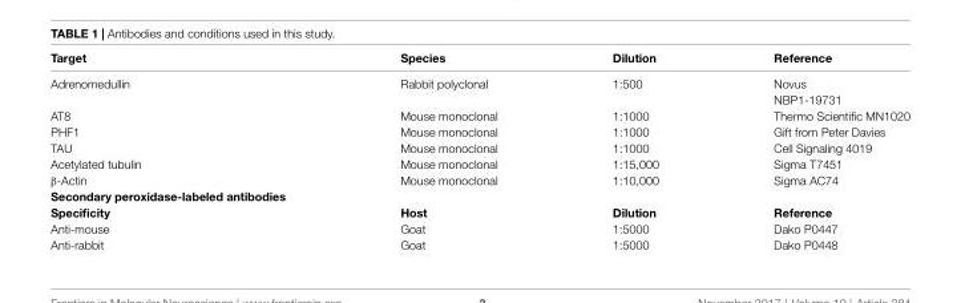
<table><thead><tr><td>Target</td><td>Species</td><td>Dilution</td><td>Reference</td></tr></thead><tbody><tr><td>Adrenomedullin</td><td>Rabbit polyclonal</td><td>1:500</td><td>Novus NBP1-19731</td></tr><tr><td>AT8</td><td>Mouse monoclonal</td><td>1:1000</td><td>Thermo Scientific MN1020</td></tr><tr><td>PHF1</td><td>Mouse monoclonal</td><td>1:1000</td><td>Gift from Peter Davies</td></tr><tr><td>TAU</td><td>Mouse monoclonal</td><td>1:1000</td><td>Cell Signaling 4019</td></tr><tr><td>Acetylated tubulin</td><td>Mouse monoclonal</td><td>1:15,000</td><td>Sigma T7451</td></tr><tr><td>β-Actin</td><td>Mouse monoclonal</td><td>1:10,000</td><td>Sigma AC74</td></tr><tr><td colspan="4">Secondary peroxidase-labeled antibodies</td></tr><tr><td>Specificity</td><td>Host</td><td>Dilution</td><td>Reference</td></tr><tr><td>Anti-mouse</td><td>Goat</td><td>1:5000</td><td>Dako P0447</td></tr><tr><td>Anti-rabbit</td><td>Goat</td><td>1:5000</td><td>Dako P0448</td></tr></tbody></table>